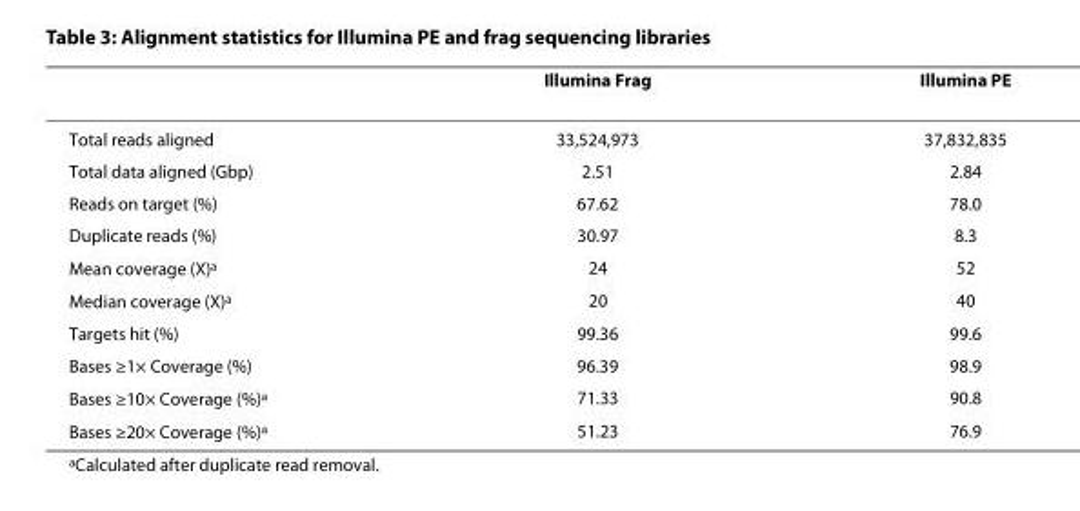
<table><thead><tr><td></td><td>Illumina Frag</td><td>Illumina PE</td></tr></thead><tbody><tr><td>Total reads aligned</td><td>33,524,973</td><td>37,832,835</td></tr><tr><td>Total data aligned (Gbp)</td><td>2.51</td><td>2.84</td></tr><tr><td>Reads on target (%)</td><td>67.62</td><td>78.0</td></tr><tr><td>Duplicate reads (%)</td><td>30.97</td><td>8.3</td></tr><tr><td>Mean coverage (X)<sup>a</sup></td><td>24</td><td>52</td></tr><tr><td>Median coverage (X)<sup>a</sup></td><td>20</td><td>40</td></tr><tr><td>Targets hit (%)</td><td>99.36</td><td>99.6</td></tr><tr><td>Bases ≥1× Coverage (%)</td><td>96.39</td><td>98.9</td></tr><tr><td>Bases ≥10× Coverage (%)<sup>a</sup></td><td>71.33</td><td>90.8</td></tr><tr><td>Bases ≥20× Coverage (%)<sup>a</sup></td><td>51.23</td><td>76.9</td></tr></tbody></table>